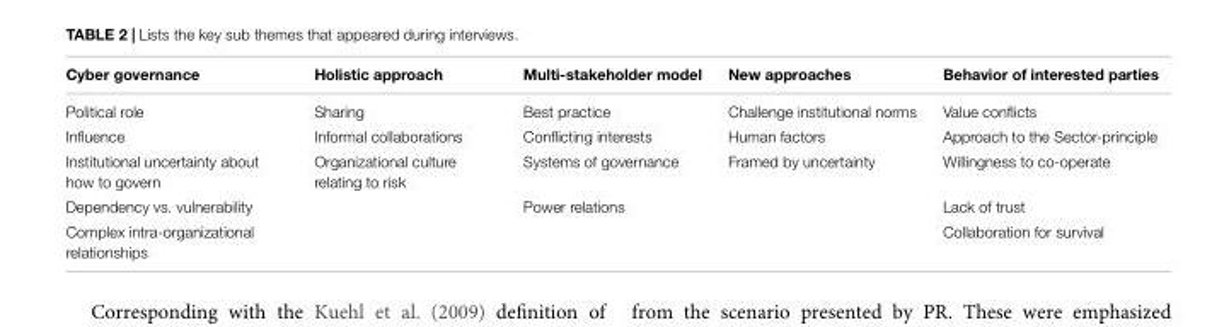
<table><thead><tr><td>Cyber governance</td><td>Holistic approach</td><td>Multi-stakeholder model</td><td>New approaches</td><td>Behavior of interested parties</td></tr></thead><tbody><tr><td>Political role</td><td>Sharing</td><td>Best practice</td><td>Challenge institutional norms</td><td>Value conflicts</td></tr><tr><td>Influence</td><td>Informal collaborations</td><td>Conflicting interests</td><td>Human factors</td><td>Approach to the Sector-principle</td></tr><tr><td>Institutional uncertainty about how to govern</td><td>Organizational culture relating to risk</td><td>Systems of governance</td><td>Framed by uncertainty</td><td>Willingness to co-operate</td></tr><tr><td>Dependency vs. vulnerability</td><td></td><td>Power relations</td><td></td><td>Lack of trust</td></tr><tr><td>Complex intra-organizational relationships</td><td></td><td></td><td></td><td>Collaboration for survival</td></tr></tbody></table>